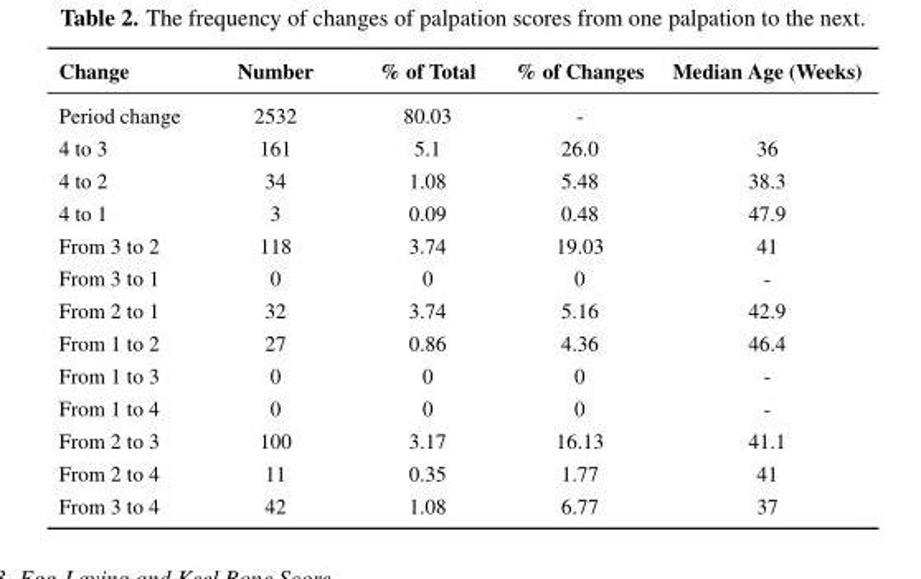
<table><thead><tr><td>Change</td><td>Number</td><td>% of Total</td><td>% of Changes</td><td>Median Age (Weeks)</td></tr></thead><tbody><tr><td>Period change</td><td>2532</td><td>80.03</td><td>-</td><td></td></tr><tr><td>4 to 3</td><td>161</td><td>5.1</td><td>26.0</td><td>36</td></tr><tr><td>4 to 2</td><td>34</td><td>1.08</td><td>5.48</td><td>38.3</td></tr><tr><td>4 to 1</td><td>3</td><td>0.09</td><td>0.48</td><td>47.9</td></tr><tr><td>From 3 to 2</td><td>118</td><td>3.74</td><td>19.03</td><td>41</td></tr><tr><td>From 3 to 1</td><td>0</td><td>0</td><td>0</td><td>-</td></tr><tr><td>From 2 to 1</td><td>32</td><td>3.74</td><td>5.16</td><td>42.9</td></tr><tr><td>From 1 to 2</td><td>27</td><td>0.86</td><td>4.36</td><td>46.4</td></tr><tr><td>From 1 to 3</td><td>0</td><td>0</td><td>0</td><td>-</td></tr><tr><td>From 1 to 4</td><td>0</td><td>0</td><td>0</td><td>-</td></tr><tr><td>From 2 to 3</td><td>100</td><td>3.17</td><td>16.13</td><td>41.1</td></tr><tr><td>From 2 to 4</td><td>11</td><td>0.35</td><td>1.77</td><td>41</td></tr><tr><td>From 3 to 4</td><td>42</td><td>1.08</td><td>6.77</td><td>37</td></tr></tbody></table>